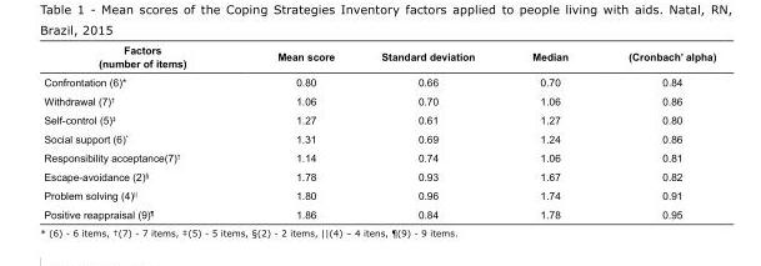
<table><tbody><tr><td>Factors (number of items)</td><td>Mean score</td><td>Standard deviation</td><td>Median</td><td>(Cronbach’ alpha)</td></tr><tr><td>Confrontation (6)*</td><td>0.80</td><td>0.66</td><td>0.70</td><td>0.84</td></tr><tr><td>Withdrawal (7)<sup>†</sup></td><td>1.06</td><td>0.70</td><td>1.06</td><td>0.86</td></tr><tr><td>Self-control (5)<sup>‡</sup></td><td>1.27</td><td>0.61</td><td>1.27</td><td>0.80</td></tr><tr><td>Social support (6)*</td><td>1.31</td><td>0.69</td><td>1.24</td><td>0.86</td></tr><tr><td>Responsibility acceptance(7)<sup>†</sup></td><td>1.14</td><td>0.74</td><td>1.06</td><td>0.81</td></tr><tr><td>Escape-avoidance (2)<sup>§</sup></td><td>1.78</td><td>0.93</td><td>1.67</td><td>0.82</td></tr><tr><td>Problem solving (4)<sup>||</sup></td><td>1.80</td><td>0.96</td><td>1.74</td><td>0.91</td></tr><tr><td>Positive reappraisal (9)<sup>¶</sup></td><td>1.86</td><td>0.84</td><td>1.78</td><td>0.95</td></tr></tbody></table>